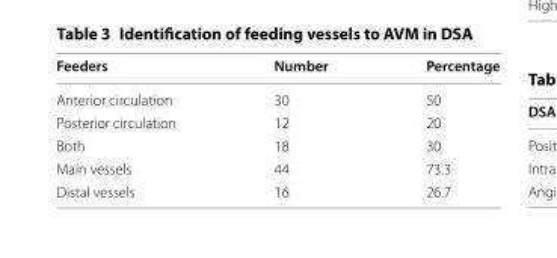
<table><thead><tr><td>Feeders</td><td>Number</td><td>Percentage</td></tr></thead><tbody><tr><td>Anterior circulation</td><td>30</td><td>50</td></tr><tr><td>Posterior circulation</td><td>12</td><td>20</td></tr><tr><td>Both</td><td>18</td><td>30</td></tr><tr><td>Main vessels</td><td>44</td><td>73.3</td></tr><tr><td>Distal vessels</td><td>16</td><td>26.7</td></tr></tbody></table>